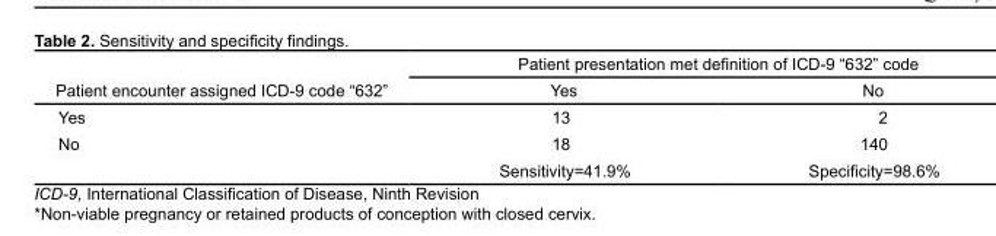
<table><thead><tr><td rowspan="2">Patient encounter assigned ICD-9 code “632”</td><td colspan="2">Patient presentation met definition of ICD-9 “632” code</td></tr><tr><td>Yes</td><td>No</td></tr></thead><tbody><tr><td>Yes</td><td>13</td><td>2</td></tr><tr><td rowspan="2">No</td><td>18</td><td>140</td></tr><tr><td>Sensitivity=41.9%</td><td>Specificity=98.6%</td></tr></tbody></table>